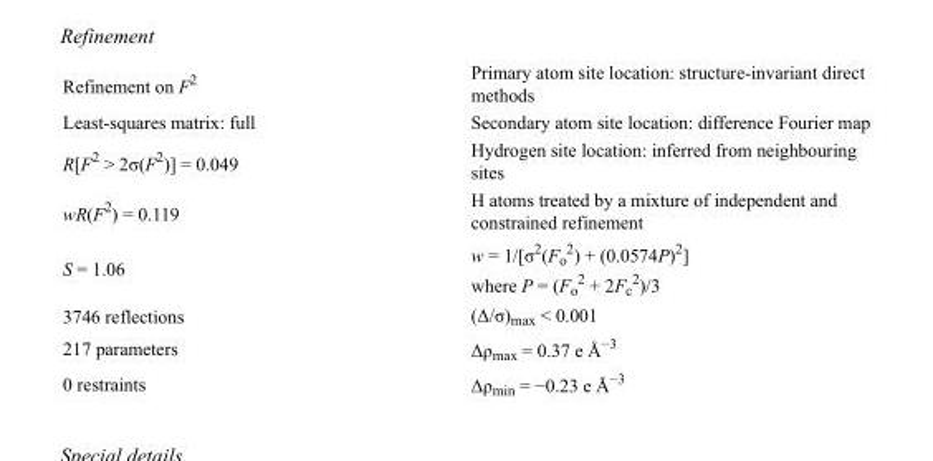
<table><tbody><tr><td>Refinement on F<sup>2</sup></td><td>Primary atom site location: structure-invariant direct methods</td></tr><tr><td>Least-squares matrix: full</td><td>Secondary atom site location: difference Fourier map</td></tr><tr><td>R[F<sup>2</sup> &gt; 2σ(F<sup>2</sup>)] = 0.049</td><td>Hydrogen site location: inferred from neighbouring sites</td></tr><tr><td>wR(F<sup>2</sup>) = 0.119</td><td>H atoms treated by a mixture of independent and constrained refinement</td></tr><tr><td>S = 1.06</td><td>w = 1/[σ<sup>2</sup>(F<sub>o</sub> <sup>2</sup>) + (0.0574P)<sup>2</sup>] where P = (F<sub>o</sub> <sup>2</sup> + 2F<sub>c</sub> <sup>2</sup>)/3</td></tr><tr><td>3746 reflections</td><td>(Δ/σ)<sub>max</sub> &lt; 0.001</td></tr><tr><td>217 parameters</td><td>Δρ<sub>max</sub> = 0.37 e Å<sup>−3</sup></td></tr><tr><td>0 restraints</td><td>Δρ<sub>min</sub> = −0.23 e Å<sup>−3</sup></td></tr></tbody></table>